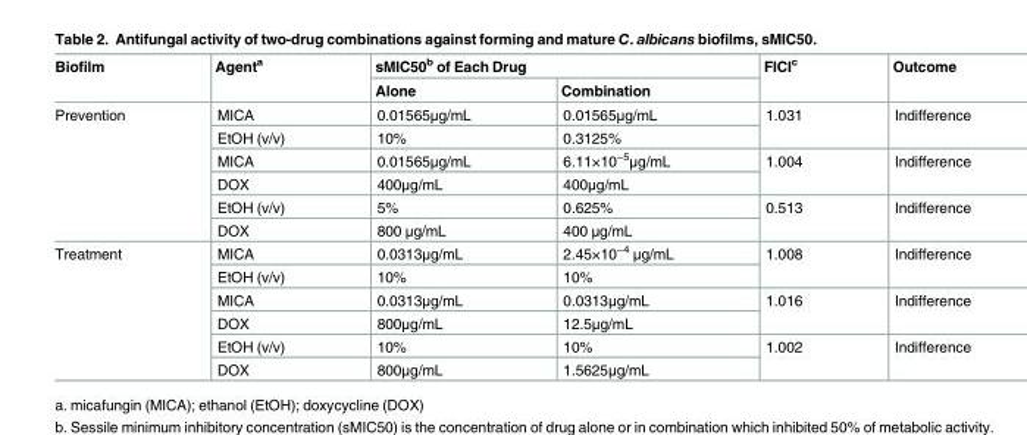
<table><thead><tr><td rowspan="2">Biofilm</td><td rowspan="2">Agent<sup>a</sup></td><td colspan="2">sMIC50<sup>b</sup> of Each Drug</td><td rowspan="2">FICI<sup>c</sup></td><td rowspan="2">Outcome</td></tr><tr><td>Alone</td><td>Combination</td></tr></thead><tbody><tr><td rowspan="6">Prevention</td><td>MICA</td><td>0.01565μg/mL</td><td>0.01565μg/mL</td><td rowspan="2">1.031</td><td rowspan="2">Indifference</td></tr><tr><td>EtOH (v/v)</td><td>10%</td><td>0.3125%</td></tr><tr><td>MICA</td><td>0.01565μg/mL</td><td>6.11×10<sup>−5</sup>μg/mL</td><td rowspan="2">1.004</td><td rowspan="2">Indifference</td></tr><tr><td>DOX</td><td>400μg/mL</td><td>400μg/mL</td></tr><tr><td>EtOH (v/v)</td><td>5%</td><td>0.625%</td><td rowspan="2">0.513</td><td rowspan="2">Indifference</td></tr><tr><td>DOX</td><td>800 μg/mL</td><td>400 μg/mL</td></tr><tr><td rowspan="6">Treatment</td><td>MICA</td><td>0.0313μg/mL</td><td>2.45×10<sup>−4</sup> μg/mL</td><td rowspan="2">1.008</td><td rowspan="2">Indifference</td></tr><tr><td>EtOH (v/v)</td><td>10%</td><td>10%</td></tr><tr><td>MICA</td><td>0.0313μg/mL</td><td>0.0313μg/mL</td><td rowspan="2">1.016</td><td rowspan="2">Indifference</td></tr><tr><td>DOX</td><td>800μg/mL</td><td>12.5μg/mL</td></tr><tr><td>EtOH (v/v)</td><td>10%</td><td>10%</td><td rowspan="2">1.002</td><td rowspan="2">Indifference</td></tr><tr><td>DOX</td><td>800μg/mL</td><td>1.5625μg/mL</td></tr></tbody></table>